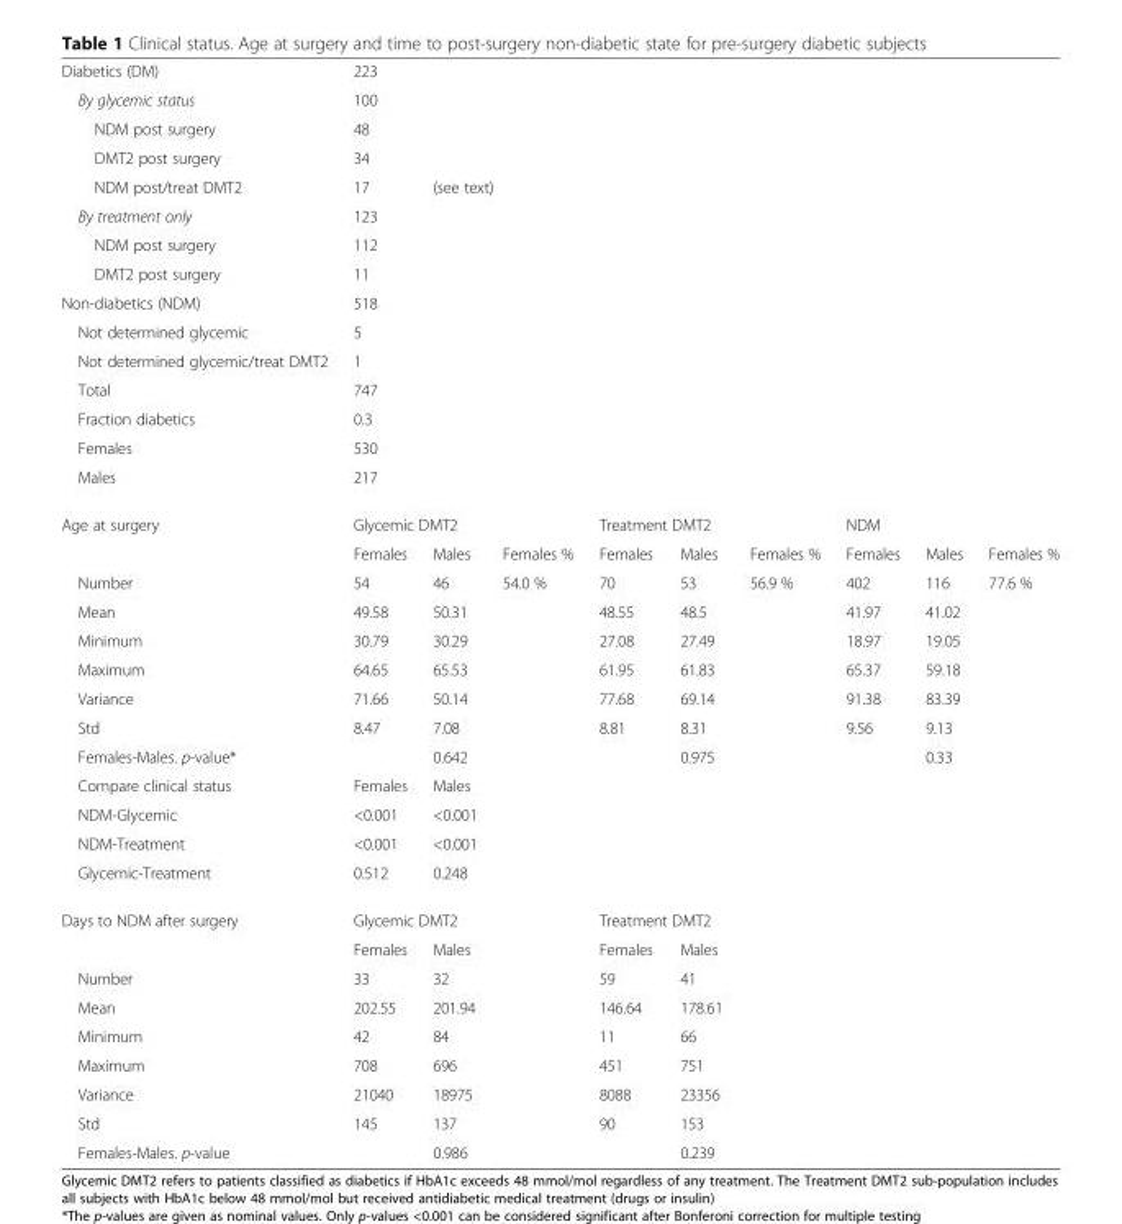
<table><tbody><tr><td>Diabetics (DM)</td><td>223</td><td></td><td></td><td></td><td></td><td></td><td></td><td></td><td></td></tr><tr><td>By glycemic status</td><td>100</td><td></td><td></td><td></td><td></td><td></td><td></td><td></td><td></td></tr><tr><td>NDM post surgery</td><td>48</td><td></td><td></td><td></td><td></td><td></td><td></td><td></td><td></td></tr><tr><td>DMT2 post surgery</td><td>34</td><td></td><td></td><td></td><td></td><td></td><td></td><td></td><td></td></tr><tr><td>NDM post/treat DMT2</td><td>17</td><td colspan="5">(see text)</td><td></td><td></td><td></td></tr><tr><td>By treatment only</td><td>123</td><td></td><td></td><td></td><td></td><td></td><td></td><td></td><td></td></tr><tr><td>NDM post surgery</td><td>112</td><td></td><td></td><td></td><td></td><td></td><td></td><td></td><td></td></tr><tr><td>DMT2 post surgery</td><td>11</td><td></td><td></td><td></td><td></td><td></td><td></td><td></td><td></td></tr><tr><td>Non-diabetics (NDM)</td><td>518</td><td></td><td></td><td></td><td></td><td></td><td></td><td></td><td></td></tr><tr><td>Not determined glycemic</td><td>5</td><td></td><td></td><td></td><td></td><td></td><td></td><td></td><td></td></tr><tr><td>Not determined glycemic/treat DMT2</td><td>1</td><td></td><td></td><td></td><td></td><td></td><td></td><td></td><td></td></tr><tr><td>Total</td><td>747</td><td></td><td></td><td></td><td></td><td></td><td></td><td></td><td></td></tr><tr><td>Fraction diabetics</td><td>0.3</td><td></td><td></td><td></td><td></td><td></td><td></td><td></td><td></td></tr><tr><td>Females</td><td>530</td><td></td><td></td><td></td><td></td><td></td><td></td><td></td><td></td></tr><tr><td>Males</td><td>217</td><td></td><td></td><td></td><td></td><td></td><td></td><td></td><td></td></tr><tr><td rowspan="2">Age at surgery</td><td colspan="2">Glycemic DMT2</td><td></td><td colspan="2">Treatment DMT2</td><td></td><td>NDM</td><td></td><td></td></tr><tr><td>Females</td><td>Males</td><td>Females %</td><td>Females</td><td>Males</td><td>Females %</td><td>Females</td><td>Males</td><td>Females %</td></tr><tr><td>Number</td><td>54</td><td>46</td><td>54.0 %</td><td>70</td><td>53</td><td>56.9 %</td><td>402</td><td>116</td><td>77.6 %</td></tr><tr><td>Mean</td><td>49.58</td><td>50.31</td><td></td><td>48.55</td><td>48.5</td><td></td><td>41.97</td><td>41.02</td><td></td></tr><tr><td>Minimum</td><td>30.79</td><td>30.29</td><td></td><td>27.08</td><td>27.49</td><td></td><td>18.97</td><td>19.05</td><td></td></tr><tr><td>Maximum</td><td>64.65</td><td>65.53</td><td></td><td>61.95</td><td>61.83</td><td></td><td>65.37</td><td>59.18</td><td></td></tr><tr><td>Variance</td><td>71.66</td><td>50.14</td><td></td><td>77.68</td><td>69.14</td><td></td><td>91.38</td><td>83.39</td><td></td></tr><tr><td>Std</td><td>8.47</td><td>7.08</td><td></td><td>8.81</td><td>8.31</td><td></td><td>9.56</td><td>9.13</td><td></td></tr><tr><td>Females-Males. p-value*</td><td></td><td>0.642</td><td></td><td></td><td>0.975</td><td></td><td></td><td>0.33</td><td></td></tr><tr><td>Compare clinical status</td><td>Females</td><td>Males</td><td></td><td></td><td></td><td></td><td></td><td></td><td></td></tr><tr><td>NDM-Glycemic</td><td>&lt;0.001</td><td>&lt;0.001</td><td></td><td></td><td></td><td></td><td></td><td></td><td></td></tr><tr><td>NDM-Treatment</td><td>&lt;0.001</td><td>&lt;0.001</td><td></td><td></td><td></td><td></td><td></td><td></td><td></td></tr><tr><td>Glycemic-Treatment</td><td>0.512</td><td>0.248</td><td></td><td></td><td></td><td></td><td></td><td></td><td></td></tr><tr><td rowspan="2">Days to NDM after surgery</td><td colspan="2">Glycemic DMT2</td><td></td><td colspan="2">Treatment DMT2</td><td></td><td></td><td></td><td></td></tr><tr><td>Females</td><td>Males</td><td></td><td>Females</td><td>Males</td><td></td><td></td><td></td><td></td></tr><tr><td>Number</td><td>33</td><td>32</td><td></td><td>59</td><td>41</td><td></td><td></td><td></td><td></td></tr><tr><td>Mean</td><td>202.55</td><td>201.94</td><td></td><td>146.64</td><td>178.61</td><td></td><td></td><td></td><td></td></tr><tr><td>Minimum</td><td>42</td><td>84</td><td></td><td>11</td><td>66</td><td></td><td></td><td></td><td></td></tr><tr><td>Maximum</td><td>708</td><td>696</td><td></td><td>451</td><td>751</td><td></td><td></td><td></td><td></td></tr><tr><td>Variance</td><td>21040</td><td>18975</td><td></td><td>8088</td><td>23356</td><td></td><td></td><td></td><td></td></tr><tr><td>Std</td><td>145</td><td>137</td><td></td><td>90</td><td>153</td><td></td><td></td><td></td><td></td></tr><tr><td>Females-Males. p-value</td><td></td><td>0.986</td><td></td><td></td><td>0.239</td><td></td><td></td><td></td><td></td></tr></tbody></table>